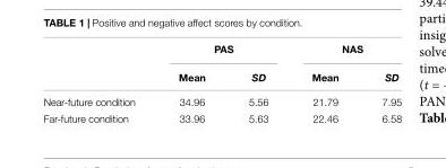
<table><thead><tr><td rowspan="2"></td><td colspan="2">PAS</td><td colspan="2">NAS</td></tr><tr><td>Mean</td><td>SD</td><td>Mean</td><td>SD</td></tr></thead><tbody><tr><td>Near-future condition</td><td>34.96</td><td>5.56</td><td>21.79</td><td>7.95</td></tr><tr><td>Far-future condition</td><td>33.96</td><td>5.63</td><td>22.46</td><td>6.58</td></tr></tbody></table>